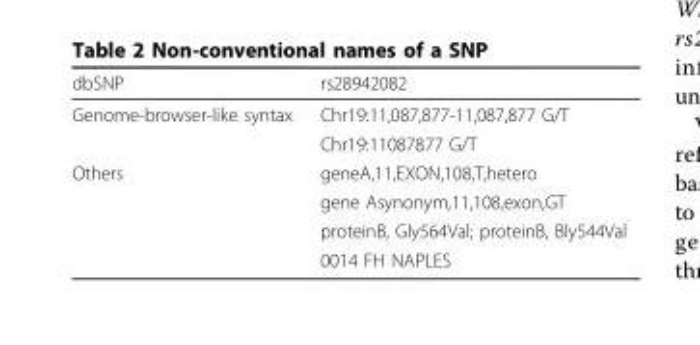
<table><thead><tr><td>dbSNP</td><td>rs28942082</td></tr></thead><tbody><tr><td rowspan="2">Genome-browser-like syntax</td><td>Chr19:11,087,877-11,087,877 G/T</td></tr><tr><td>Chr19:11087877 G/T</td></tr><tr><td rowspan="4">Others</td><td>geneA,11,EXON,108,T,hetero</td></tr><tr><td>gene Asynonym,11,108,exon,GT</td></tr><tr><td>proteinB, Gly564Val; proteinB, Bly544Val</td></tr><tr><td>0014 FH NAPLES</td></tr></tbody></table>